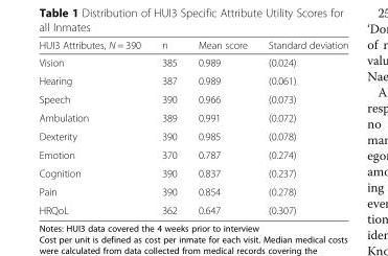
<table><thead><tr><td>HUI3 Attributes, N = 390</td><td>n</td><td>Mean score</td><td>Standard deviation</td></tr></thead><tbody><tr><td>Vision</td><td>385</td><td>0.989</td><td>(0.024)</td></tr><tr><td>Hearing</td><td>387</td><td>0.989</td><td>(0.061)</td></tr><tr><td>Speech</td><td>390</td><td>0.966</td><td>(0.073)</td></tr><tr><td>Ambulation</td><td>389</td><td>0.991</td><td>(0.072)</td></tr><tr><td>Dexterity</td><td>390</td><td>0.985</td><td>(0.078)</td></tr><tr><td>Emotion</td><td>370</td><td>0.787</td><td>(0.274)</td></tr><tr><td>Cognition</td><td>390</td><td>0.837</td><td>(0.237)</td></tr><tr><td>Pain</td><td>390</td><td>0.854</td><td>(0.278)</td></tr><tr><td>HRQoL</td><td>362</td><td>0.647</td><td>(0.307)</td></tr></tbody></table>